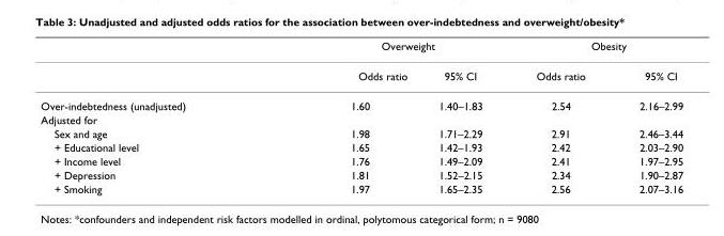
<table><thead><tr><td rowspan="2"></td><td colspan="2">Overweight</td><td colspan="2">Obesity</td></tr><tr><td>Odds ratio</td><td>95% CI</td><td>Odds ratio</td><td>95% CI</td></tr></thead><tbody><tr><td>Over-indebtedness (unadjusted)</td><td>1.60</td><td>1.40–1.83</td><td>2.54</td><td>2.16–2.99</td></tr><tr><td colspan="5">Adjusted for</td></tr><tr><td>Sex and age</td><td>1.98</td><td>1.71–2.29</td><td>2.91</td><td>2.46–3.44</td></tr><tr><td>+ Educational level</td><td>1.65</td><td>1.42–1.93</td><td>2.42</td><td>2.03–2.90</td></tr><tr><td>+ Income level</td><td>1.76</td><td>1.49–2.09</td><td>2.41</td><td>1.97–2.95</td></tr><tr><td>+ Depression</td><td>1.81</td><td>1.52–2.15</td><td>2.34</td><td>1.90–2.87</td></tr><tr><td>+ Smoking</td><td>1.97</td><td>1.65–2.35</td><td>2.56</td><td>2.07–3.16</td></tr></tbody></table>